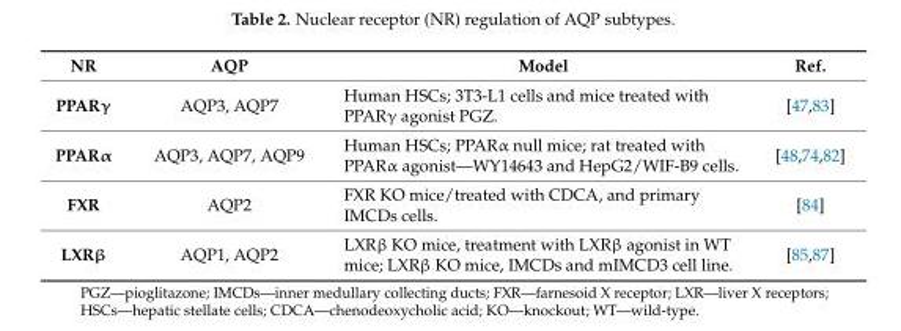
<table><thead><tr><td>NR</td><td>AQP</td><td>Model</td><td>Ref.</td></tr></thead><tbody><tr><td>PPARγ</td><td>AQP3, AQP7</td><td>Human HSCs; 3T3-L1 cells and mice treated with PPARγ agonist PGZ.</td><td>[47,83]</td></tr><tr><td>PPARα</td><td>AQP3, AQP7, AQP9</td><td>Human HSCs; PPARα null mice; rat treated with PPARα agonist—WY14643 and HepG2/WIF-B9 cells.</td><td>[48,74,82]</td></tr><tr><td>FXR</td><td>AQP2</td><td>FXR KO mice/treated with CDCA, and primary IMCDs cells.</td><td>[84]</td></tr><tr><td>LXRβ</td><td>AQP1, AQP2</td><td>LXRβ KO mice, treatment with LXRβ agonist in WT mice; LXRβ KO mice, IMCDs and mIMCD3 cell line.</td><td>[85,87]</td></tr></tbody></table>